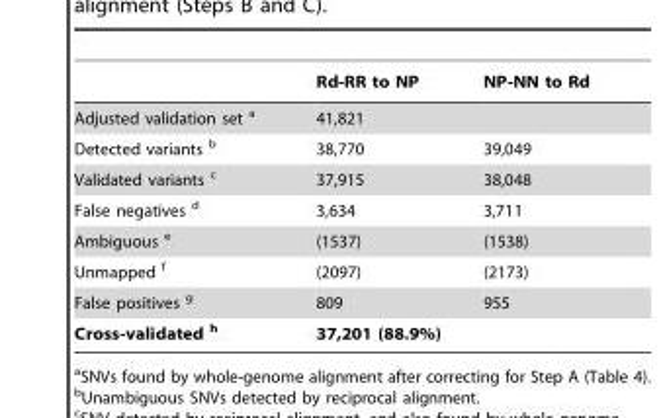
<table><thead><tr><td></td><td>Rd-RR to NP</td><td>NP-NN to Rd</td></tr></thead><tbody><tr><td>Adjusted validation set a</td><td colspan="2">41,821</td></tr><tr><td>Detected variants b</td><td>38,770</td><td>39,049</td></tr><tr><td>Validated variants c</td><td>37,915</td><td>38,048</td></tr><tr><td>False negatives d</td><td>3,634</td><td>3,711</td></tr><tr><td>Ambiguous e</td><td>(1537)</td><td>(1538)</td></tr><tr><td>Unmapped f</td><td>(2097)</td><td>(2173)</td></tr><tr><td>False positives g</td><td>809</td><td>955</td></tr><tr><td>Cross-validated h</td><td colspan="2">37,201 (88.9%)</td></tr></tbody></table>